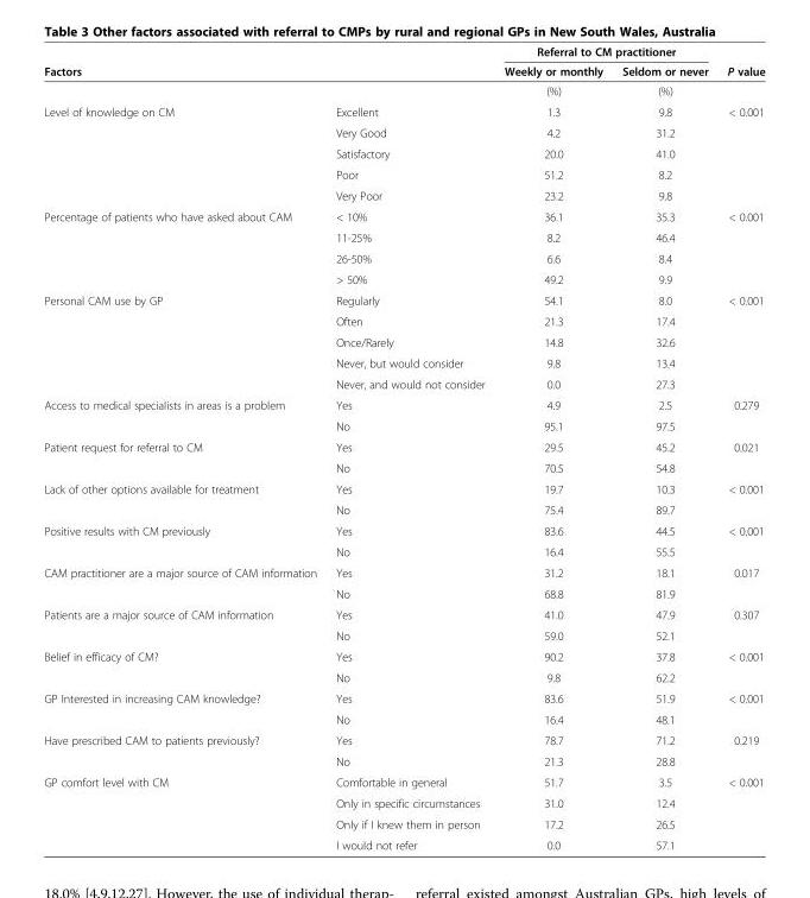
<table><thead><tr><td></td><td></td><td colspan="2">Referral to CM practitioner</td><td rowspan="2">P value</td></tr><tr><td colspan="2">Factors</td><td>Weekly or monthly</td><td>Seldom or never</td></tr></thead><tbody><tr><td colspan="2"></td><td>(%)</td><td>(%)</td><td></td></tr><tr><td rowspan="5">Level of knowledge on CM</td><td>Excellent</td><td>1.3</td><td>9.8</td><td>&lt; 0.001</td></tr><tr><td>Very Good</td><td>4.2</td><td>31.2</td><td></td></tr><tr><td>Satisfactory</td><td>20.0</td><td>41.0</td><td></td></tr><tr><td>Poor</td><td>51.2</td><td>8.2</td><td></td></tr><tr><td>Very Poor</td><td>23.2</td><td>9.8</td><td></td></tr><tr><td rowspan="4">Percentage of patients who have asked about CAM</td><td>&lt; 10%</td><td>36.1</td><td>35.3</td><td>&lt; 0.001</td></tr><tr><td>11-25%</td><td>8.2</td><td>46.4</td><td></td></tr><tr><td>26-50%</td><td>6.6</td><td>8.4</td><td></td></tr><tr><td>&gt; 50%</td><td>49.2</td><td>9.9</td><td></td></tr><tr><td rowspan="5">Personal CAM use by GP</td><td>Regularly</td><td>54.1</td><td>8.0</td><td>&lt; 0.001</td></tr><tr><td>Often</td><td>21.3</td><td>17.4</td><td></td></tr><tr><td>Once/Rarely</td><td>14.8</td><td>32.6</td><td></td></tr><tr><td>Never, but would consider</td><td>9.8</td><td>13.4</td><td></td></tr><tr><td>Never, and would not consider</td><td>0.0</td><td>27.3</td><td></td></tr><tr><td rowspan="2">Access to medical specialists in areas is a problem</td><td>Yes</td><td>4.9</td><td>2.5</td><td>0.279</td></tr><tr><td>No</td><td>95.1</td><td>97.5</td><td></td></tr><tr><td rowspan="2">Patient request for referral to CM</td><td>Yes</td><td>29.5</td><td>45.2</td><td>0.021</td></tr><tr><td>No</td><td>70.5</td><td>54.8</td><td></td></tr><tr><td rowspan="2">Lack of other options available for treatment</td><td>Yes</td><td>19.7</td><td>10.3</td><td>&lt; 0.001</td></tr><tr><td>No</td><td>75.4</td><td>89.7</td><td></td></tr><tr><td rowspan="2">Positive results with CM previously</td><td>Yes</td><td>83.6</td><td>44.5</td><td>&lt; 0.001</td></tr><tr><td>No</td><td>16.4</td><td>55.5</td><td></td></tr><tr><td rowspan="2">CAM practitioner are a major source of CAM information</td><td>Yes</td><td>31.2</td><td>18.1</td><td>0.017</td></tr><tr><td>No</td><td>68.8</td><td>81.9</td><td></td></tr><tr><td rowspan="2">Patients are a major source of CAM information</td><td>Yes</td><td>41.0</td><td>47.9</td><td>0.307</td></tr><tr><td>No</td><td>59.0</td><td>52.1</td><td></td></tr><tr><td rowspan="2">Belief in efficacy of CM?</td><td>Yes</td><td>90.2</td><td>37.8</td><td>&lt; 0.001</td></tr><tr><td>No</td><td>9.8</td><td>62.2</td><td></td></tr><tr><td rowspan="2">GP Interested in increasing CAM knowledge?</td><td>Yes</td><td>83.6</td><td>51.9</td><td>&lt; 0.001</td></tr><tr><td>No</td><td>16.4</td><td>48.1</td><td></td></tr><tr><td rowspan="2">Have prescribed CAM to patients previously?</td><td>Yes</td><td>78.7</td><td>71.2</td><td>0.219</td></tr><tr><td>No</td><td>21.3</td><td>28.8</td><td></td></tr><tr><td rowspan="4">GP comfort level with CM</td><td>Comfortable in general</td><td>51.7</td><td>3.5</td><td>&lt; 0.001</td></tr><tr><td>Only in specific circumstances</td><td>31.0</td><td>12.4</td><td></td></tr><tr><td>Only if I knew them in person</td><td>17.2</td><td>26.5</td><td></td></tr><tr><td>I would not refer</td><td>0.0</td><td>57.1</td><td></td></tr></tbody></table>